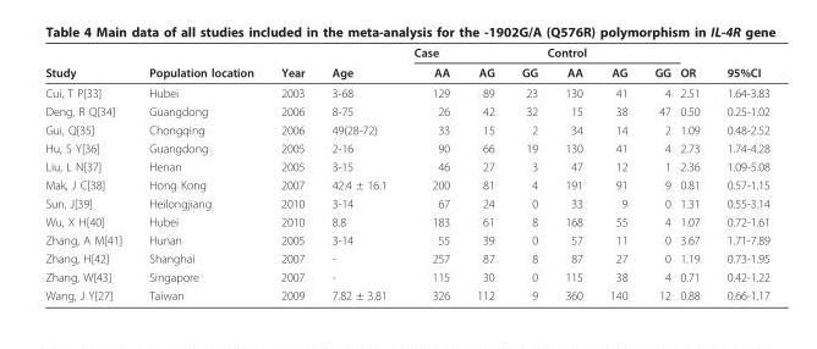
<table><thead><tr><td rowspan="2">Study</td><td rowspan="2">Population location</td><td rowspan="2">Year</td><td rowspan="2">Age</td><td colspan="3">Case</td><td colspan="3">Control</td><td rowspan="2">OR</td><td rowspan="2">95%CI</td></tr><tr><td>AA</td><td>AG</td><td>GG</td><td>AA</td><td>AG</td><td>GG</td></tr></thead><tbody><tr><td>Cui, T P[33]</td><td>Hubei</td><td>2003</td><td>3-68</td><td>129</td><td>89</td><td>23</td><td>130</td><td>41</td><td>4</td><td>2.51</td><td>1.64-3.83</td></tr><tr><td>Deng, R Q[34]</td><td>Guangdong</td><td>2006</td><td>8-75</td><td>26</td><td>42</td><td>32</td><td>15</td><td>38</td><td>47</td><td>0.50</td><td>0.25-1.02</td></tr><tr><td>Gui, Q[35]</td><td>Chongqing</td><td>2006</td><td>49(28-72)</td><td>33</td><td>15</td><td>2</td><td>34</td><td>14</td><td>2</td><td>1.09</td><td>0.48-2.52</td></tr><tr><td>Hu, S Y[36]</td><td>Guangdong</td><td>2005</td><td>2-16</td><td>90</td><td>66</td><td>19</td><td>130</td><td>41</td><td>4</td><td>2.73</td><td>1.74-4.28</td></tr><tr><td>Liu, L N[37]</td><td>Henan</td><td>2005</td><td>3-15</td><td>46</td><td>27</td><td>3</td><td>47</td><td>12</td><td>1</td><td>2.36</td><td>1.09-5.08</td></tr><tr><td>Mak, J C[38]</td><td>Hong Kong</td><td>2007</td><td>42.4 ± 16.1</td><td>200</td><td>81</td><td>4</td><td>191</td><td>91</td><td>9</td><td>0.81</td><td>0.57-1.15</td></tr><tr><td>Sun, J[39]</td><td>Heilongjiang</td><td>2010</td><td>3-14</td><td>67</td><td>24</td><td>0</td><td>33</td><td>9</td><td>0</td><td>1.31</td><td>0.55-3.14</td></tr><tr><td>Wu, X H[40]</td><td>Hubei</td><td>2010</td><td>8.8</td><td>183</td><td>61</td><td>8</td><td>168</td><td>55</td><td>4</td><td>1.07</td><td>0.72-1.61</td></tr><tr><td>Zhang, A M[41]</td><td>Hunan</td><td>2005</td><td>3-14</td><td>55</td><td>39</td><td>0</td><td>57</td><td>11</td><td>0</td><td>3.67</td><td>1.71-7.89</td></tr><tr><td>Zhang, H[42]</td><td>Shanghai</td><td>2007</td><td>-</td><td>257</td><td>87</td><td>8</td><td>87</td><td>27</td><td>0</td><td>1.19</td><td>0.73-1.95</td></tr><tr><td>Zhang, W[43]</td><td>Singapore</td><td>2007</td><td>-</td><td>115</td><td>30</td><td>0</td><td>115</td><td>38</td><td>4</td><td>0.71</td><td>0.42-1.22</td></tr><tr><td>Wang, J Y[27]</td><td>Taiwan</td><td>2009</td><td>7.82 ± 3.81</td><td>326</td><td>112</td><td>9</td><td>360</td><td>140</td><td>12</td><td>0.88</td><td>0.66-1.17</td></tr></tbody></table>